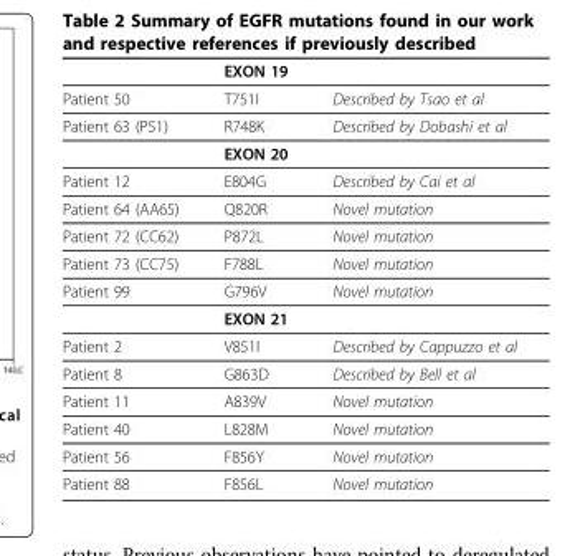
<table><thead><tr><td></td><td>EXON 19</td><td></td></tr></thead><tbody><tr><td>Patient 50</td><td>T751I</td><td>Described by Tsao et al</td></tr><tr><td rowspan="2">Patient 63 (P51)</td><td>R748K</td><td>Described by Dobashi et al</td></tr><tr><td>EXON 20</td><td></td></tr><tr><td>Patient 12</td><td>E804G</td><td>Described by Cai et al</td></tr><tr><td>Patient 64 (AA65)</td><td>Q820R</td><td>Novel mutation</td></tr><tr><td>Patient 72 (CC62)</td><td>P872L</td><td>Novel mutation</td></tr><tr><td>Patient 73 (CC75)</td><td>F788L</td><td>Novel mutation</td></tr><tr><td rowspan="2">Patient 99</td><td>G796V</td><td>Novel mutation</td></tr><tr><td>EXON 21</td><td></td></tr><tr><td>Patient 2</td><td>V851I</td><td>Described by Cappuzzo et al</td></tr><tr><td>Patient 8</td><td>G863D</td><td>Described by Bell et al</td></tr><tr><td>Patient 11</td><td>A839V</td><td>Novel mutation</td></tr><tr><td>Patient 40</td><td>L828M</td><td>Novel mutation</td></tr><tr><td>Patient 56</td><td>F856Y</td><td>Novel mutation</td></tr><tr><td>Patient 88</td><td>F856L</td><td>Novel mutation</td></tr></tbody></table>